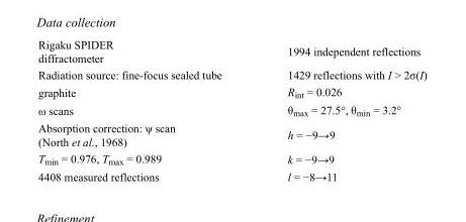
<table><tbody><tr><td>Rigaku SPIDER diffractometer</td><td>1994 independent reflections</td></tr><tr><td>Radiation source: fine-focus sealed tube</td><td>1429 reflections with I &gt; 2σ(I)</td></tr><tr><td>graphite</td><td>R<sub>int</sub> = 0.026</td></tr><tr><td>ω scans</td><td>θ<sub>max</sub> = 27.5°, θ<sub>min</sub> = 3.2°</td></tr><tr><td>Absorption correction: ψ scan (North et al., 1968)</td><td>h = −9→9</td></tr><tr><td>T<sub>min</sub> = 0.976, T<sub>max</sub> = 0.989</td><td>k = −9→9</td></tr><tr><td>4408 measured reflections</td><td>l = −8→11</td></tr></tbody></table>